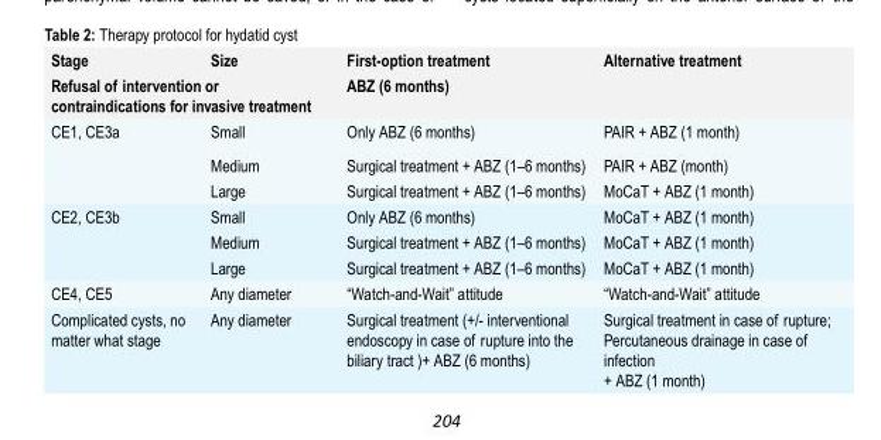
<table><thead><tr><td>Stage</td><td>Size</td><td rowspan="2">First-option treatment ABZ (6 months)</td><td rowspan="2">Alternative treatment</td></tr><tr><td colspan="2">Refusal of intervention or contraindications for invasive treatment</td></tr></thead><tbody><tr><td rowspan="3">CE1, CE3a</td><td>Small</td><td>Only ABZ (6 months)</td><td>PAIR + ABZ (1 month)</td></tr><tr><td>Medium</td><td>Surgical treatment + ABZ (1–6 months)</td><td>PAIR + ABZ (month)</td></tr><tr><td>Large</td><td>Surgical treatment + ABZ (1–6 months)</td><td>MoCaT + ABZ (1 month)</td></tr><tr><td rowspan="3">CE2, CE3b</td><td>Small</td><td>Only ABZ (6 months)</td><td>MoCaT + ABZ (1 month)</td></tr><tr><td>Medium</td><td>Surgical treatment + ABZ (1–6 months)</td><td>MoCaT + ABZ (1 month)</td></tr><tr><td>Large</td><td>Surgical treatment + ABZ (1–6 months)</td><td>MoCaT + ABZ (1 month)</td></tr><tr><td>CE4, CE5</td><td>Any diameter</td><td>“Watch-and-Wait” attitude</td><td>“Watch-and-Wait” attitude</td></tr><tr><td>Complicated cysts, no matter what stage</td><td>Any diameter</td><td>Surgical treatment (+/- interventional endoscopy in case of rupture into the biliary tract )+ ABZ (6 months)</td><td>Surgical treatment in case of rupture; Percutaneous drainage in case of infection + ABZ (1 month)</td></tr></tbody></table>